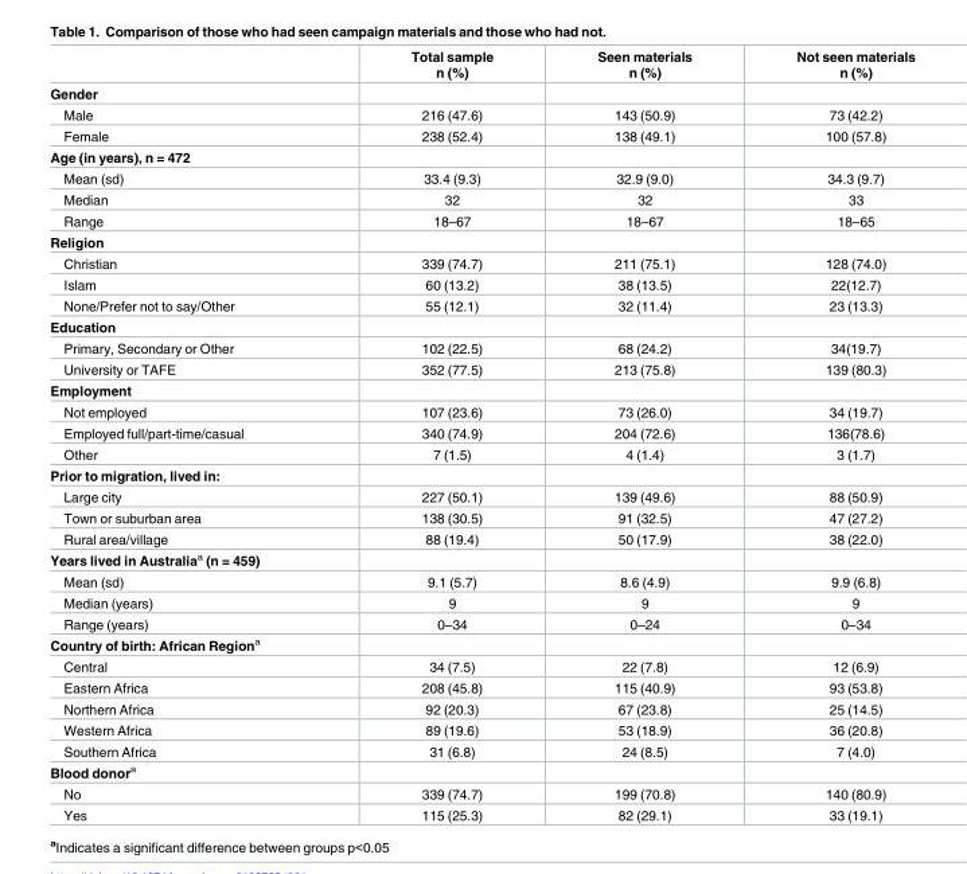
<table><thead><tr><td></td><td>Total sample n (%)</td><td>Seen materials n (%)</td><td>Not seen materials n (%)</td></tr></thead><tbody><tr><td colspan="4">Gender</td></tr><tr><td>Male</td><td>216 (47.6)</td><td>143 (50.9)</td><td>73 (42.2)</td></tr><tr><td>Female</td><td>238 (52.4)</td><td>138 (49.1)</td><td>100 (57.8)</td></tr><tr><td colspan="4">Age (in years), n = 472</td></tr><tr><td>Mean (sd)</td><td>33.4 (9.3)</td><td>32.9 (9.0)</td><td>34.3 (9.7)</td></tr><tr><td>Median</td><td>32</td><td>32</td><td>33</td></tr><tr><td>Range</td><td>18–67</td><td>18–67</td><td>18–65</td></tr><tr><td colspan="4">Religion</td></tr><tr><td>Christian</td><td>339 (74.7)</td><td>211 (75.1)</td><td>128 (74.0)</td></tr><tr><td>Islam</td><td>60 (13.2)</td><td>38 (13.5)</td><td>22(12.7)</td></tr><tr><td>None/Prefer not to say/Other</td><td>55 (12.1)</td><td>32 (11.4)</td><td>23 (13.3)</td></tr><tr><td colspan="4">Education</td></tr><tr><td>Primary, Secondary or Other</td><td>102 (22.5)</td><td>68 (24.2)</td><td>34(19.7)</td></tr><tr><td>University or TAFE</td><td>352 (77.5)</td><td>213 (75.8)</td><td>139 (80.3)</td></tr><tr><td colspan="4">Employment</td></tr><tr><td>Not employed</td><td>107 (23.6)</td><td>73 (26.0)</td><td>34 (19.7)</td></tr><tr><td>Employed full/part-time/casual</td><td>340 (74.9)</td><td>204 (72.6)</td><td>136(78.6)</td></tr><tr><td>Other</td><td>7 (1.5)</td><td>4 (1.4)</td><td>3 (1.7)</td></tr><tr><td colspan="4">Prior to migration, lived in:</td></tr><tr><td>Large city</td><td>227 (50.1)</td><td>139 (49.6)</td><td>88 (50.9)</td></tr><tr><td>Town or suburban area</td><td>138 (30.5)</td><td>91 (32.5)</td><td>47 (27.2)</td></tr><tr><td>Rural area/village</td><td>88 (19.4)</td><td>50 (17.9)</td><td>38 (22.0)</td></tr><tr><td colspan="4">Years lived in Australia<sup>a</sup> (n = 459)</td></tr><tr><td>Mean (sd)</td><td>9.1 (5.7)</td><td>8.6 (4.9)</td><td>9.9 (6.8)</td></tr><tr><td>Median (years)</td><td>9</td><td>9</td><td>9</td></tr><tr><td>Range (years)</td><td>0–34</td><td>0–24</td><td>0–34</td></tr><tr><td colspan="4">Country of birth: African Region<sup>a</sup></td></tr><tr><td>Central</td><td>34 (7.5)</td><td>22 (7.8)</td><td>12 (6.9)</td></tr><tr><td>Eastern Africa</td><td>208 (45.8)</td><td>115 (40.9)</td><td>93 (53.8)</td></tr><tr><td>Northern Africa</td><td>92 (20.3)</td><td>67 (23.8)</td><td>25 (14.5)</td></tr><tr><td>Western Africa</td><td>89 (19.6)</td><td>53 (18.9)</td><td>36 (20.8)</td></tr><tr><td>Southern Africa</td><td>31 (6.8)</td><td>24 (8.5)</td><td>7 (4.0)</td></tr><tr><td colspan="4">Blood donor<sup>a</sup></td></tr><tr><td>No</td><td>339 (74.7)</td><td>199 (70.8)</td><td>140 (80.9)</td></tr><tr><td>Yes</td><td>115 (25.3)</td><td>82 (29.1)</td><td>33 (19.1)</td></tr></tbody></table>